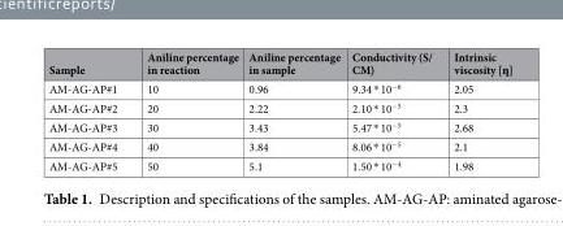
<table><thead><tr><td>Sample</td><td>Aniline percentage in reaction</td><td>Aniline percentage in sample</td><td>Conductivity (S/ CM)</td><td>Intrinsic viscosity [ƞ]</td></tr></thead><tbody><tr><td>AM-AG-AP#1</td><td>10</td><td>0.96</td><td>9.34 * 10<sup>−6</sup></td><td>2.05</td></tr><tr><td>AM-AG-AP#2</td><td>20</td><td>2.22</td><td>2.10 * 10<sup>−5</sup></td><td>2.3</td></tr><tr><td>AM-AG-AP#3</td><td>30</td><td>3.43</td><td>5.47 * 10<sup>−5</sup></td><td>2.68</td></tr><tr><td>AM-AG-AP#4</td><td>40</td><td>3.84</td><td>8.06 * 10<sup>−5</sup></td><td>2.1</td></tr><tr><td>AM-AG-AP#5</td><td>50</td><td>5.1</td><td>1.50 * 10<sup>−4</sup></td><td>1.98</td></tr></tbody></table>